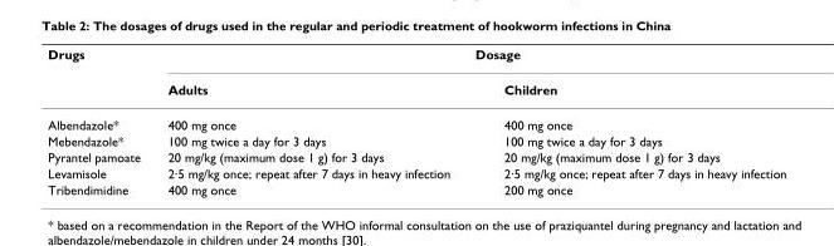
<table><thead><tr><td rowspan="2">Drugs</td><td colspan="2">Dosage</td></tr><tr><td>Adults</td><td>Children</td></tr></thead><tbody><tr><td>Albendazole*</td><td>400 mg once</td><td>400 mg once</td></tr><tr><td>Mebendazole*</td><td>100 mg twice a day for 3 days</td><td>100 mg twice a day for 3 days</td></tr><tr><td>Pyrantel pamoate</td><td>20 mg/kg (maximum dose 1 g) for 3 days</td><td>20 mg/kg (maximum dose 1 g) for 3 days</td></tr><tr><td>Levamisole</td><td>2·5 mg/kg once; repeat after 7 days in heavy infection</td><td>2·5 mg/kg once; repeat after 7 days in heavy infection</td></tr><tr><td>Tribendimidine</td><td>400 mg once</td><td>200 mg once</td></tr></tbody></table>